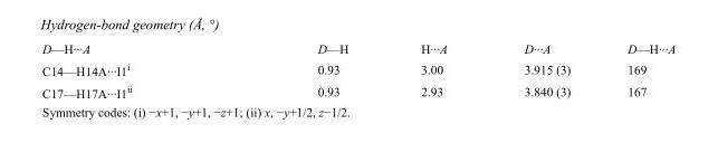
<table><tbody><tr><td>D—H···A</td><td>D—H</td><td>H···A</td><td>D···A</td><td>D—H···A</td></tr><tr><td>C14—H14A···I1<sup>i</sup></td><td>0.93</td><td>3.00</td><td>3.915 (3)</td><td>169</td></tr><tr><td>C17—H17A···I1<sup>ii</sup></td><td>0.93</td><td>2.93</td><td>3.840 (3)</td><td>167</td></tr></tbody></table>